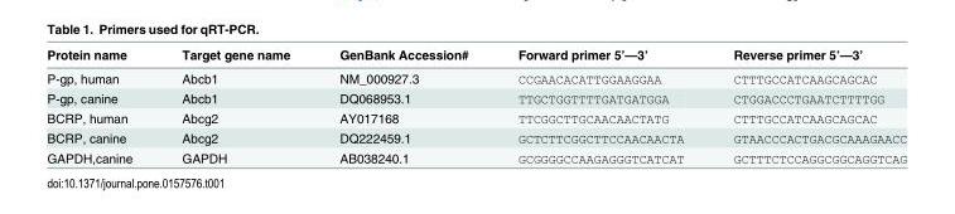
<table><thead><tr><td>Protein name</td><td>Target gene name</td><td>GenBank Accession#</td><td>Forward primer 5’—3’</td><td>Reverse primer 5’—3’</td></tr></thead><tbody><tr><td>P-gp, human</td><td>Abcb1</td><td>NM_000927.3</td><td>CCGAACACATTGGAAGGAA</td><td>CTTTGCCATCAAGCAGCAC</td></tr><tr><td>P-gp, canine</td><td>Abcb1</td><td>DQ068953.1</td><td>TTGCTGGTTTTGATGATGGA</td><td>CTGGACCCTGAATCTTTTGG</td></tr><tr><td>BCRP, human</td><td>Abcg2</td><td>AY017168</td><td>TTCGGCTTGCAACAACTATG</td><td>CTTTGCCATCAAGCAGCAC</td></tr><tr><td>BCRP, canine</td><td>Abcg2</td><td>DQ222459.1</td><td>GCTCTTCGGCTTCCAACAACTA</td><td>GTAACCCACTGACGCAAAGAACC</td></tr><tr><td>GAPDH,canine</td><td>GAPDH</td><td>AB038240.1</td><td>GCGGGGCCAAGAGGGTCATCAT</td><td>GCTTTCTCCAGGCGGCAGGTCAG</td></tr></tbody></table>